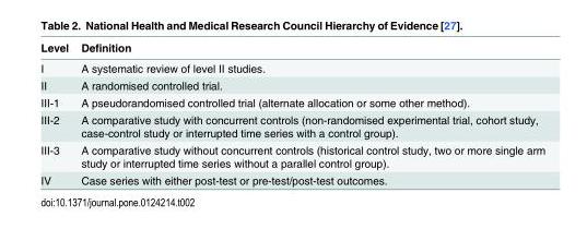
<table><thead><tr><td>Level</td><td>Definition</td></tr></thead><tbody><tr><td>I</td><td>A systematic review of level II studies.</td></tr><tr><td>II</td><td>A randomised controlled trial.</td></tr><tr><td>III-1</td><td>A pseudorandomised controlled trial (alternate allocation or some other method).</td></tr><tr><td>III-2</td><td>A comparative study with concurrent controls (non-randomised experimental trial, cohort study, case-control study or interrupted time series with a control group).</td></tr><tr><td>III-3</td><td>A comparative study without concurrent controls (historical control study, two or more single arm study or interrupted time series without a parallel control group).</td></tr><tr><td>IV</td><td>Case series with either post-test or pre-test/post-test outcomes.</td></tr></tbody></table>